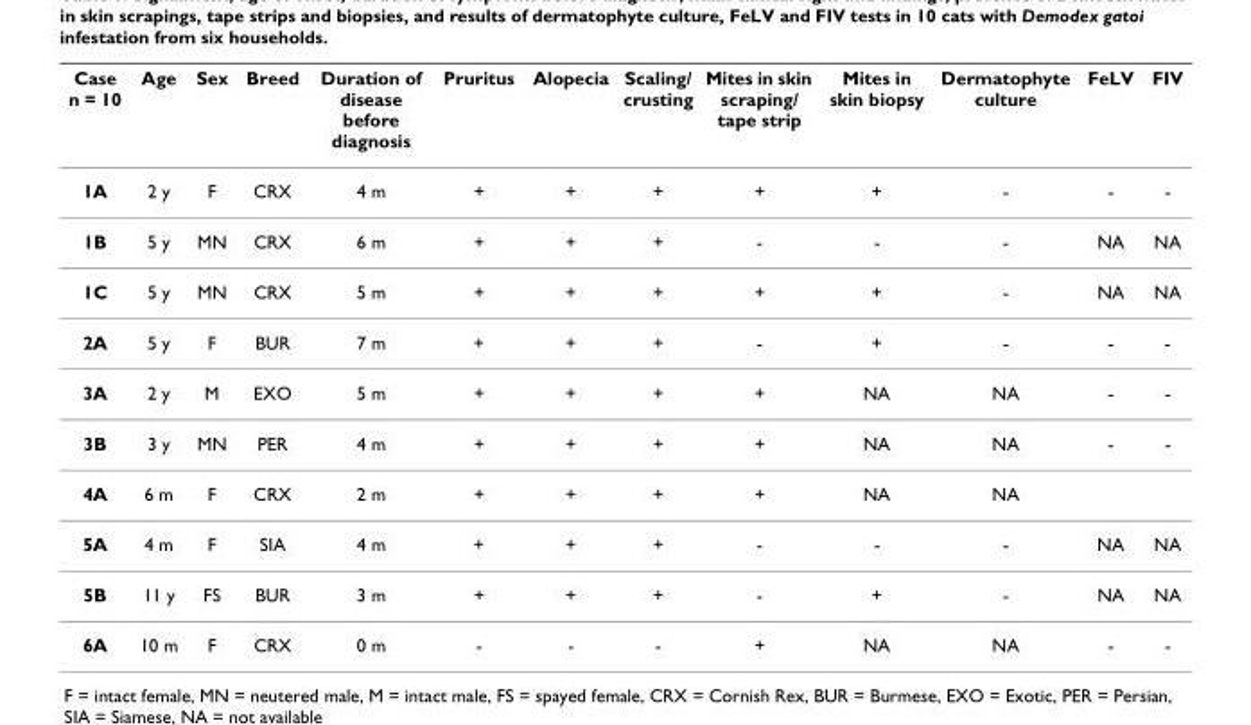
<table><thead><tr><td>Case n = 10</td><td>Age</td><td>Sex</td><td>Breed</td><td>Duration of disease before diagnosis</td><td>Pruritus</td><td>Alopecia</td><td>Scaling/ crusting</td><td>Mites in skin scraping/ tape strip</td><td>Mites in skin biopsy</td><td>Dermatophyte culture</td><td>FeLV</td><td>FIV</td></tr></thead><tbody><tr><td>1A</td><td>2 y</td><td>F</td><td>CRX</td><td>4 m</td><td>+</td><td>+</td><td>+</td><td>+</td><td>+</td><td>-</td><td>-</td><td>-</td></tr><tr><td>1B</td><td>5 y</td><td>MN</td><td>CRX</td><td>6 m</td><td>+</td><td>+</td><td>+</td><td>-</td><td>-</td><td>-</td><td>NA</td><td>NA</td></tr><tr><td>1C</td><td>5 y</td><td>MN</td><td>CRX</td><td>5 m</td><td>+</td><td>+</td><td>+</td><td>+</td><td>+</td><td>-</td><td>NA</td><td>NA</td></tr><tr><td>2A</td><td>5 y</td><td>F</td><td>BUR</td><td>7 m</td><td>+</td><td>+</td><td>+</td><td>-</td><td>+</td><td>-</td><td>-</td><td>-</td></tr><tr><td>3A</td><td>2 y</td><td>M</td><td>EXO</td><td>5 m</td><td>+</td><td>+</td><td>+</td><td>+</td><td>NA</td><td>NA</td><td>-</td><td>-</td></tr><tr><td>3B</td><td>3 y</td><td>MN</td><td>PER</td><td>4 m</td><td>+</td><td>+</td><td>+</td><td>+</td><td>NA</td><td>NA</td><td>-</td><td>-</td></tr><tr><td>4A</td><td>6 m</td><td>F</td><td>CRX</td><td>2 m</td><td>+</td><td>+</td><td>+</td><td>+</td><td>NA</td><td>NA</td><td></td><td></td></tr><tr><td>5A</td><td>4 m</td><td>F</td><td>SIA</td><td>4 m</td><td>+</td><td>+</td><td>+</td><td>-</td><td>-</td><td>-</td><td>NA</td><td>NA</td></tr><tr><td>5B</td><td>11 y</td><td>FS</td><td>BUR</td><td>3 m</td><td>+</td><td>+</td><td>+</td><td>-</td><td>+</td><td>-</td><td>NA</td><td>NA</td></tr><tr><td>6A</td><td>10 m</td><td>F</td><td>CRX</td><td>0 m</td><td>-</td><td>-</td><td>-</td><td>+</td><td>NA</td><td>NA</td><td>-</td><td>-</td></tr></tbody></table>